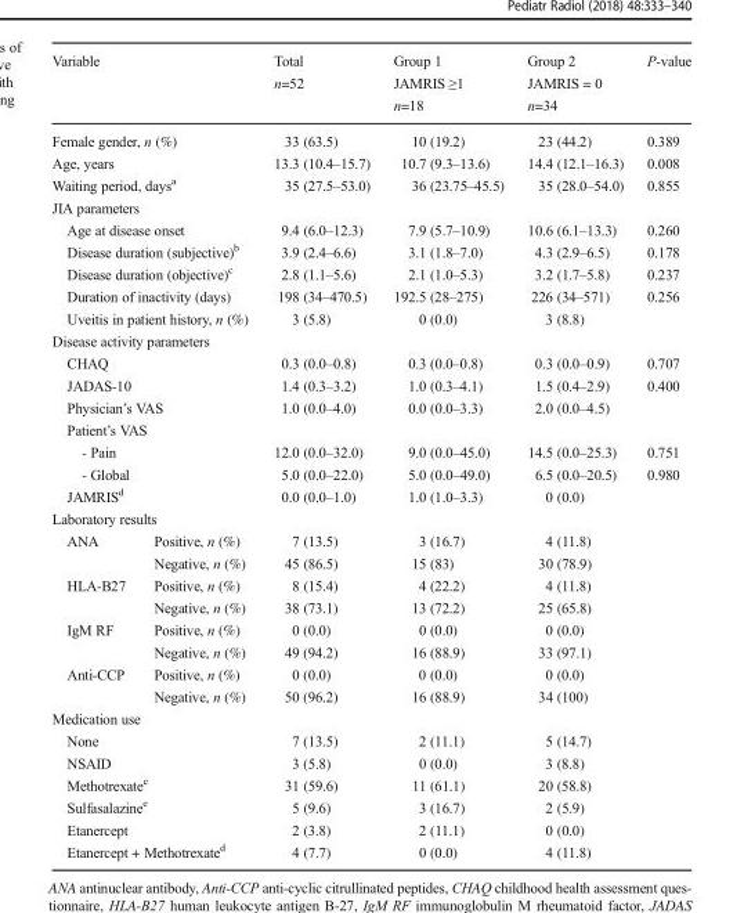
<table><thead><tr><td colspan="2">Variable</td><td>Total n=52</td><td>Group 1 JAMRIS ≥1 n=18</td><td>Group 2 JAMRIS = 0 n=34</td><td>P-value</td></tr></thead><tbody><tr><td colspan="2">Female gender, n (%)</td><td>33 (63.5)</td><td>10 (19.2)</td><td>23 (44.2)</td><td>0.389</td></tr><tr><td colspan="2">Age, years</td><td>13.3 (10.4–15.7)</td><td>10.7 (9.3–13.6)</td><td>14.4 (12.1–16.3)</td><td>0.008</td></tr><tr><td colspan="2">Waiting period, days<sup>a</sup></td><td>35 (27.5–53.0)</td><td>36 (23.75–45.5)</td><td>35 (28.0–54.0)</td><td>0.855</td></tr><tr><td colspan="6">JIA parameters</td></tr><tr><td colspan="2">Age at disease onset</td><td>9.4 (6.0–12.3)</td><td>7.9 (5.7–10.9)</td><td>10.6 (6.1–13.3)</td><td>0.260</td></tr><tr><td colspan="2">Disease duration (subjective)<sup>b</sup></td><td>3.9 (2.4–6.6)</td><td>3.1 (1.8–7.0)</td><td>4.3 (2.9–6.5)</td><td>0.178</td></tr><tr><td colspan="2">Disease duration (objective)<sup>c</sup></td><td>2.8 (1.1–5.6)</td><td>2.1 (1.0–5.3)</td><td>3.2 (1.7–5.8)</td><td>0.237</td></tr><tr><td colspan="2">Duration of inactivity (days)</td><td>198 (34–470.5)</td><td>192.5 (28–275)</td><td>226 (34–571)</td><td>0.256</td></tr><tr><td colspan="2">Uveitis in patient history, n (%)</td><td>3 (5.8)</td><td>0 (0.0)</td><td>3 (8.8)</td><td></td></tr><tr><td colspan="6">Disease activity parameters</td></tr><tr><td colspan="2">CHAQ</td><td>0.3 (0.0–0.8)</td><td>0.3 (0.0–0.8)</td><td>0.3 (0.0–0.9)</td><td>0.707</td></tr><tr><td colspan="2">JADAS-10</td><td>1.4 (0.3–3.2)</td><td>1.0 (0.3–4.1)</td><td>1.5 (0.4–2.9)</td><td>0.400</td></tr><tr><td colspan="2">Physician’s VAS</td><td>1.0 (0.0–4.0)</td><td>0.0 (0.0–3.3)</td><td>2.0 (0.0–4.5)</td><td></td></tr><tr><td colspan="6">Patient’s VAS</td></tr><tr><td colspan="2">- Pain</td><td>12.0 (0.0–32.0)</td><td>9.0 (0.0–45.0)</td><td>14.5 (0.0–25.3)</td><td>0.751</td></tr><tr><td colspan="2">- Global</td><td>5.0 (0.0–22.0)</td><td>5.0 (0.0–49.0)</td><td>6.5 (0.0–20.5)</td><td>0.980</td></tr><tr><td colspan="2">JAMRIS<sup>d</sup></td><td>0.0 (0.0–1.0)</td><td>1.0 (1.0–3.3)</td><td>0 (0.0)</td><td></td></tr><tr><td colspan="6">Laboratory results</td></tr><tr><td rowspan="2">ANA</td><td>Positive, n (%)</td><td>7 (13.5)</td><td>3 (16.7)</td><td>4 (11.8)</td><td></td></tr><tr><td>Negative, n (%)</td><td>45 (86.5)</td><td>15 (83)</td><td>30 (78.9)</td><td></td></tr><tr><td rowspan="2">HLA-B27</td><td>Positive, n (%)</td><td>8 (15.4)</td><td>4 (22.2)</td><td>4 (11.8)</td><td></td></tr><tr><td>Negative, n (%)</td><td>38 (73.1)</td><td>13 (72.2)</td><td>25 (65.8)</td><td></td></tr><tr><td rowspan="2">IgM RF</td><td>Positive, n (%)</td><td>0 (0.0)</td><td>0 (0.0)</td><td>0 (0.0)</td><td></td></tr><tr><td>Negative, n (%)</td><td>49 (94.2)</td><td>16 (88.9)</td><td>33 (97.1)</td><td></td></tr><tr><td rowspan="2">Anti-CCP</td><td>Positive, n (%)</td><td>0 (0.0)</td><td>0 (0.0)</td><td>0 (0.0)</td><td></td></tr><tr><td>Negative, n (%)</td><td>50 (96.2)</td><td>16 (88.9)</td><td>34 (100)</td><td></td></tr><tr><td colspan="6">Medication use</td></tr><tr><td colspan="2">None</td><td>7 (13.5)</td><td>2 (11.1)</td><td>5 (14.7)</td><td></td></tr><tr><td colspan="2">NSAID</td><td>3 (5.8)</td><td>0 (0.0)</td><td>3 (8.8)</td><td></td></tr><tr><td colspan="2">Methotrexate<sup>e</sup></td><td>31 (59.6)</td><td>11 (61.1)</td><td>20 (58.8)</td><td></td></tr><tr><td colspan="2">Sulfasalazine<sup>e</sup></td><td>5 (9.6)</td><td>3 (16.7)</td><td>2 (5.9)</td><td></td></tr><tr><td colspan="2">Etanercept</td><td>2 (3.8)</td><td>2 (11.1)</td><td>0 (0.0)</td><td></td></tr><tr><td colspan="2">Etanercept + Methotrexate<sup>d</sup></td><td>4 (7.7)</td><td>0 (0.0)</td><td>4 (11.8)</td><td></td></tr></tbody></table>